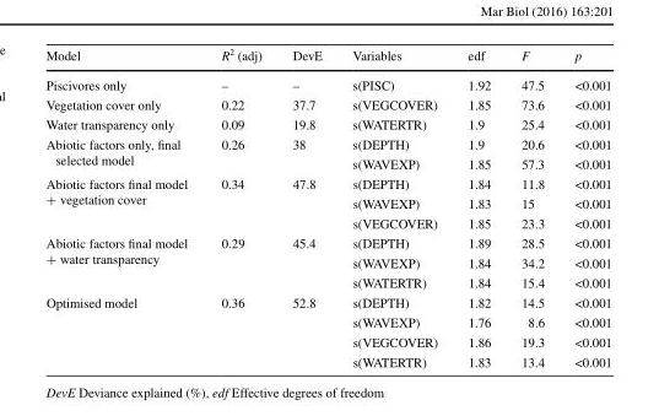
<table><thead><tr><td>Model</td><td>R<sup>2</sup> (adj)</td><td>DevE</td><td>Variables</td><td>edf</td><td>F</td><td>p</td></tr></thead><tbody><tr><td>Piscivores only</td><td>–</td><td>–</td><td>s(PISC)</td><td>1.92</td><td>47.5</td><td>&lt;0.001</td></tr><tr><td>Vegetation cover only</td><td>0.22</td><td>37.7</td><td>s(VEGCOVER)</td><td>1.85</td><td>73.6</td><td>&lt;0.001</td></tr><tr><td>Water transparency only</td><td>0.09</td><td>19.8</td><td>s(WATERTR)</td><td>1.9</td><td>25.4</td><td>&lt;0.001</td></tr><tr><td rowspan="2">Abiotic factors only, final selected model</td><td rowspan="2">0.26</td><td rowspan="2">38</td><td>s(DEPTH)</td><td>1.9</td><td>20.6</td><td>&lt;0.001</td></tr><tr><td>s(WAVEXP)</td><td>1.85</td><td>57.3</td><td>&lt;0.001</td></tr><tr><td rowspan="3">Abiotic factors final model + vegetation cover</td><td rowspan="3">0.34</td><td rowspan="3">47.8</td><td>s(DEPTH)</td><td>1.84</td><td>11.8</td><td>&lt;0.001</td></tr><tr><td>s(WAVEXP)</td><td>1.83</td><td>15</td><td>&lt;0.001</td></tr><tr><td>s(VEGCOVER)</td><td>1.85</td><td>23.3</td><td>&lt;0.001</td></tr><tr><td rowspan="3">Abiotic factors final model + water transparency</td><td rowspan="3">0.29</td><td rowspan="3">45.4</td><td>s(DEPTH)</td><td>1.89</td><td>28.5</td><td>&lt;0.001</td></tr><tr><td>s(WAVEXP)</td><td>1.84</td><td>34.2</td><td>&lt;0.001</td></tr><tr><td>s(WATERTR)</td><td>1.84</td><td>15.4</td><td>&lt;0.001</td></tr><tr><td rowspan="4">Optimised model</td><td rowspan="4">0.36</td><td rowspan="4">52.8</td><td>s(DEPTH)</td><td>1.82</td><td>14.5</td><td>&lt;0.001</td></tr><tr><td>s(WAVEXP)</td><td>1.76</td><td>8.6</td><td>&lt;0.001</td></tr><tr><td>s(VEGCOVER)</td><td>1.86</td><td>19.3</td><td>&lt;0.001</td></tr><tr><td>s(WATERTR)</td><td>1.83</td><td>13.4</td><td>&lt;0.001</td></tr></tbody></table>